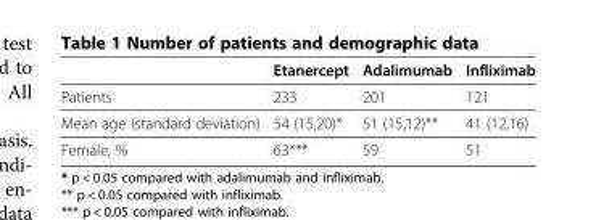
<table><thead><tr><td></td><td>Etanercept</td><td>Adalimumab</td><td>Infliximab</td></tr></thead><tbody><tr><td>Patients</td><td>233</td><td>201</td><td>121</td></tr><tr><td>Mean age (standard deviation)</td><td>54 (15,20)*</td><td>51 (15,12)**</td><td>41 (12,16)</td></tr><tr><td>Female, %</td><td>63***</td><td>59</td><td>51</td></tr></tbody></table>